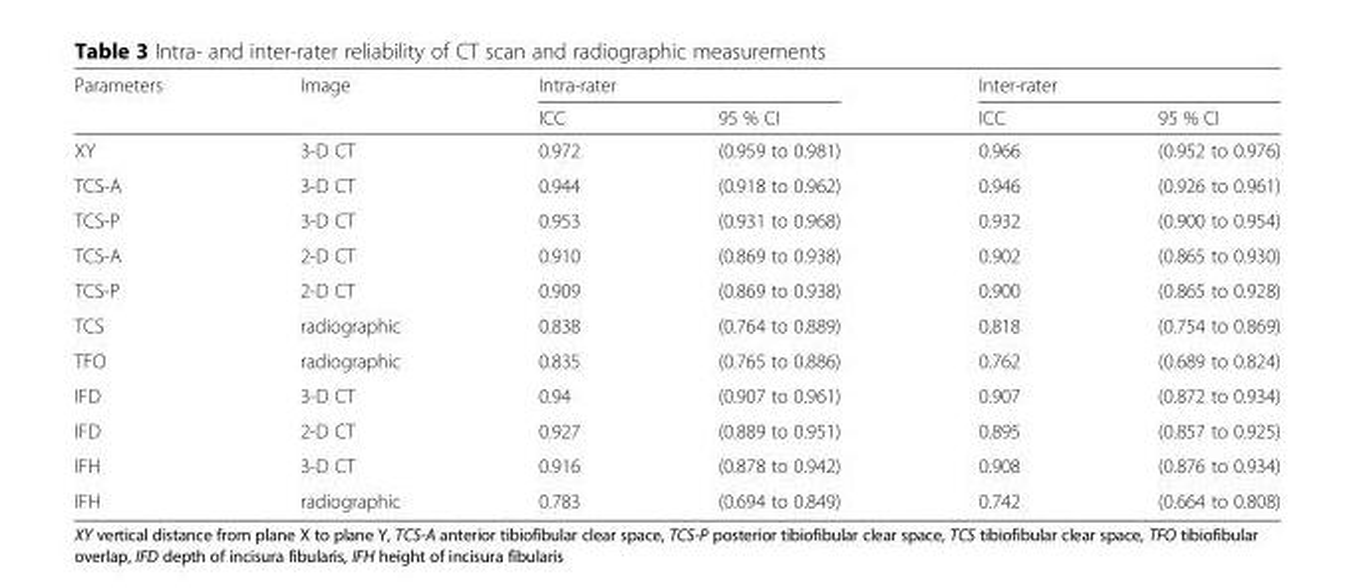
<table><thead><tr><td rowspan="2">Parameters</td><td rowspan="2">Image</td><td colspan="2">Intra-rater</td><td colspan="2">Inter-rater</td></tr><tr><td>ICC</td><td>95 % CI</td><td>ICC</td><td>95 % CI</td></tr></thead><tbody><tr><td>XY</td><td>3-D CT</td><td>0.972</td><td>(0.959 to 0.981)</td><td>0.966</td><td>(0.952 to 0.976)</td></tr><tr><td>TCS-A</td><td>3-D CT</td><td>0.944</td><td>(0.918 to 0.962)</td><td>0.946</td><td>(0.926 to 0.961)</td></tr><tr><td>TCS-P</td><td>3-D CT</td><td>0.953</td><td>(0.931 to 0.968)</td><td>0.932</td><td>(0.900 to 0.954)</td></tr><tr><td>TCS-A</td><td>2-D CT</td><td>0.910</td><td>(0.869 to 0.938)</td><td>0.902</td><td>(0.865 to 0.930)</td></tr><tr><td>TCS-P</td><td>2-D CT</td><td>0.909</td><td>(0.869 to 0.938)</td><td>0.900</td><td>(0.865 to 0.928)</td></tr><tr><td>TCS</td><td>radiographic</td><td>0.838</td><td>(0.764 to 0.889)</td><td>0.818</td><td>(0.754 to 0.869)</td></tr><tr><td>TFO</td><td>radiographic</td><td>0.835</td><td>(0.765 to 0.886)</td><td>0.762</td><td>(0.689 to 0.824)</td></tr><tr><td>IFD</td><td>3-D CT</td><td>0.94</td><td>(0.907 to 0.961)</td><td>0.907</td><td>(0.872 to 0.934)</td></tr><tr><td>IFD</td><td>2-D CT</td><td>0.927</td><td>(0.889 to 0.951)</td><td>0.895</td><td>(0.857 to 0.925)</td></tr><tr><td>IFH</td><td>3-D CT</td><td>0.916</td><td>(0.878 to 0.942)</td><td>0.908</td><td>(0.876 to 0.934)</td></tr><tr><td>IFH</td><td>radiographic</td><td>0.783</td><td>(0.694 to 0.849)</td><td>0.742</td><td>(0.664 to 0.808)</td></tr></tbody></table>